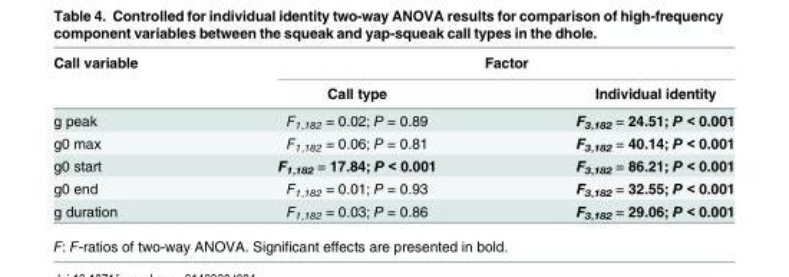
<table><thead><tr><td rowspan="2">Call variable</td><td colspan="2">Factor</td></tr><tr><td>Call type</td><td>Individual identity</td></tr></thead><tbody><tr><td>g peak</td><td>F<sub>1,182</sub> = 0.02; P = 0.89</td><td>F<sub>3,182</sub> = 24.51; P &lt; 0.001</td></tr><tr><td>g0 max</td><td>F<sub>1,182</sub> = 0.06; P = 0.81</td><td>F<sub>3,182</sub> = 40.14; P &lt; 0.001</td></tr><tr><td>g0 start</td><td>F<sub>1,182</sub> = 17.84; P &lt; 0.001</td><td>F<sub>3,182</sub> = 86.21; P &lt; 0.001</td></tr><tr><td>g0 end</td><td>F<sub>1,182</sub> = 0.01; P = 0.93</td><td>F<sub>3,182</sub> = 32.55; P &lt; 0.001</td></tr><tr><td>g duration</td><td>F<sub>1,182</sub> = 0.03; P = 0.86</td><td>F<sub>3,182</sub> = 29.06; P &lt; 0.001</td></tr></tbody></table>